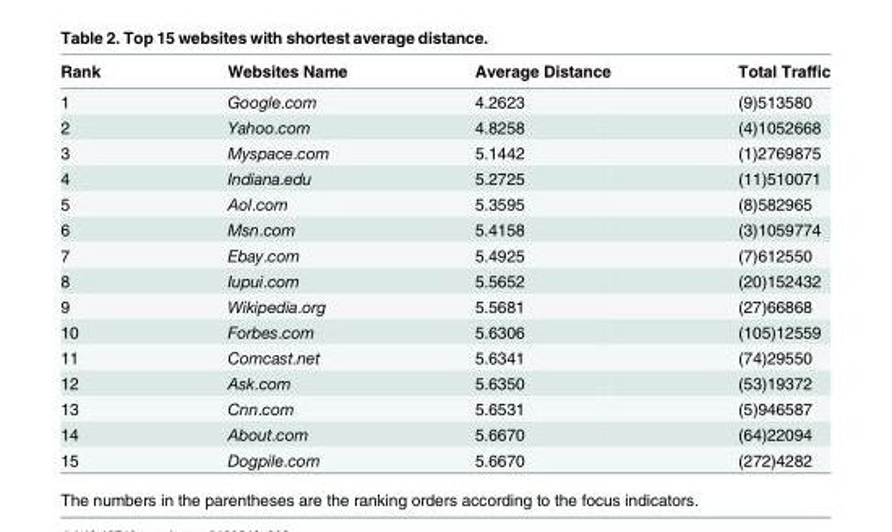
<table><thead><tr><td>Rank</td><td>Websites Name</td><td>Average Distance</td><td>Total Traffic</td></tr></thead><tbody><tr><td>1</td><td>Google.com</td><td>4.2623</td><td>(9)513580</td></tr><tr><td>2</td><td>Yahoo.com</td><td>4.8258</td><td>(4)1052668</td></tr><tr><td>3</td><td>Myspace.com</td><td>5.1442</td><td>(1)2769875</td></tr><tr><td>4</td><td>Indiana.edu</td><td>5.2725</td><td>(11)510071</td></tr><tr><td>5</td><td>Aol.com</td><td>5.3595</td><td>(8)582965</td></tr><tr><td>6</td><td>Msn.com</td><td>5.4158</td><td>(3)1059774</td></tr><tr><td>7</td><td>Ebay.com</td><td>5.4925</td><td>(7)612550</td></tr><tr><td>8</td><td>Iupui.com</td><td>5.5652</td><td>(20)152432</td></tr><tr><td>9</td><td>Wikipedia.org</td><td>5.5681</td><td>(27)66868</td></tr><tr><td>10</td><td>Forbes.com</td><td>5.6306</td><td>(105)12559</td></tr><tr><td>11</td><td>Comcast.net</td><td>5.6341</td><td>(74)29550</td></tr><tr><td>12</td><td>Ask.com</td><td>5.6350</td><td>(53)19372</td></tr><tr><td>13</td><td>Cnn.com</td><td>5.6531</td><td>(5)946587</td></tr><tr><td>14</td><td>About.com</td><td>5.6670</td><td>(64)22094</td></tr><tr><td>15</td><td>Dogpile.com</td><td>5.6670</td><td>(272)4282</td></tr></tbody></table>